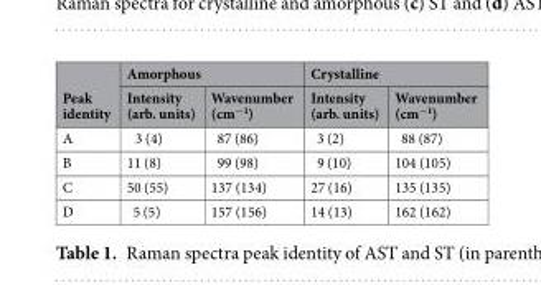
<table><thead><tr><td rowspan="2">Peak identity</td><td colspan="2">Amorphous</td><td colspan="2">Crystalline</td></tr><tr><td>Intensity (arb. units)</td><td>Wavenumber (cm<sup>−1</sup>)</td><td>Intensity (arb. units)</td><td>Wavenumber (cm<sup>−1</sup>)</td></tr></thead><tbody><tr><td>A</td><td>3 (4)</td><td>87 (86)</td><td>3 (2)</td><td>88 (87)</td></tr><tr><td>B</td><td>11 (8)</td><td>99 (98)</td><td>9 (10)</td><td>104 (105)</td></tr><tr><td>C</td><td>50 (55)</td><td>137 (134)</td><td>27 (16)</td><td>135 (135)</td></tr><tr><td>D</td><td>5 (5)</td><td>157 (156)</td><td>14 (13)</td><td>162 (162)</td></tr></tbody></table>